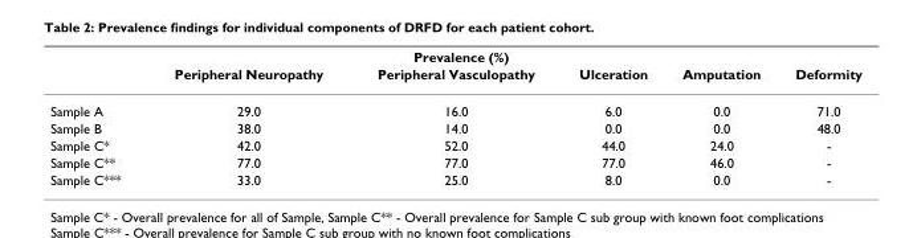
<table><thead><tr><td colspan="6">Prevalence (%)</td></tr><tr><td></td><td>Peripheral Neuropathy</td><td>Peripheral Vasculopathy</td><td>Ulceration</td><td>Amputation</td><td>Deformity</td></tr></thead><tbody><tr><td>Sample A</td><td>29.0</td><td>16.0</td><td>6.0</td><td>0.0</td><td>71.0</td></tr><tr><td>Sample B</td><td>38.0</td><td>14.0</td><td>0.0</td><td>0.0</td><td>48.0</td></tr><tr><td>Sample C*</td><td>42.0</td><td>52.0</td><td>44.0</td><td>24.0</td><td>-</td></tr><tr><td>Sample C**</td><td>77.0</td><td>77.0</td><td>77.0</td><td>46.0</td><td>-</td></tr><tr><td>Sample C***</td><td>33.0</td><td>25.0</td><td>8.0</td><td>0.0</td><td>-</td></tr></tbody></table>